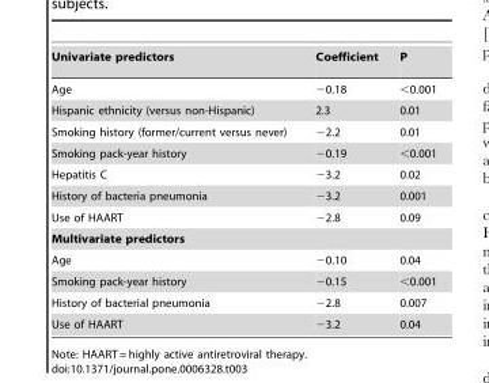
<table><tbody><tr><td>Univariate predictors</td><td>Coefficient</td><td>P</td></tr><tr><td>Age</td><td>−0.18</td><td>&lt;0.001</td></tr><tr><td>Hispanic ethnicity (versus non-Hispanic)</td><td>2.3</td><td>0.01</td></tr><tr><td>Smoking history (former/current versus never)</td><td>−2.2</td><td>0.01</td></tr><tr><td>Smoking pack-year history</td><td>−0.19</td><td>&lt;0.001</td></tr><tr><td>Hepatitis C</td><td>−3.2</td><td>0.02</td></tr><tr><td>History of bacteria pneumonia</td><td>−3.2</td><td>0.001</td></tr><tr><td>Use of HAART</td><td>−2.8</td><td>0.09</td></tr><tr><td colspan="3">Multivariate predictors</td></tr><tr><td>Age</td><td>−0.10</td><td>0.04</td></tr><tr><td>Smoking pack-year history</td><td>−0.15</td><td>&lt;0.001</td></tr><tr><td>History of bacterial pneumonia</td><td>−2.8</td><td>0.007</td></tr><tr><td>Use of HAART</td><td>−3.2</td><td>0.04</td></tr></tbody></table>